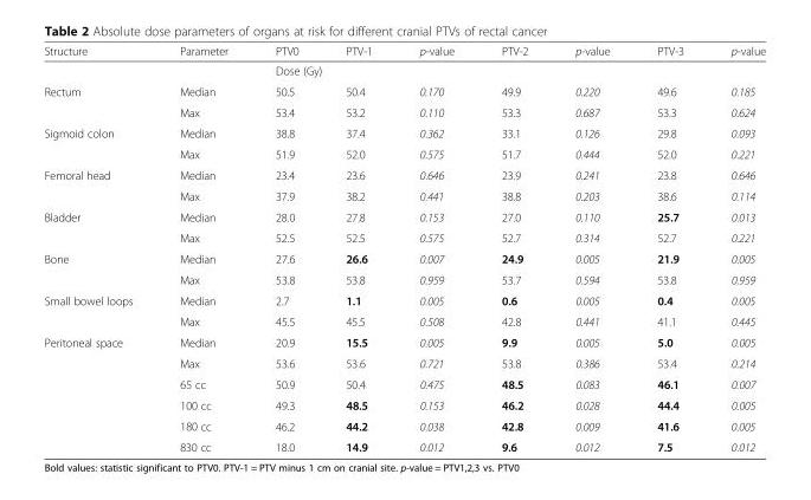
<table><thead><tr><td>Structure</td><td>Parameter</td><td>PTV0</td><td>PTV-1</td><td>p-value</td><td>PTV-2</td><td>p-value</td><td>PTV-3</td><td>p-value</td></tr></thead><tbody><tr><td colspan="2"></td><td colspan="7">Dose (Gy)</td></tr><tr><td rowspan="2">Rectum</td><td>Median</td><td>50.5</td><td>50.4</td><td>0.170</td><td>49.9</td><td>0.220</td><td>49.6</td><td>0.185</td></tr><tr><td>Max</td><td>53.4</td><td>53.2</td><td>0.110</td><td>53.3</td><td>0.687</td><td>53.3</td><td>0.624</td></tr><tr><td rowspan="2">Sigmoid colon</td><td>Median</td><td>38.8</td><td>37.4</td><td>0.362</td><td>33.1</td><td>0.126</td><td>29.8</td><td>0.093</td></tr><tr><td>Max</td><td>51.9</td><td>52.0</td><td>0.575</td><td>51.7</td><td>0.444</td><td>52.0</td><td>0.221</td></tr><tr><td rowspan="2">Femoral head</td><td>Median</td><td>23.4</td><td>23.6</td><td>0.646</td><td>23.9</td><td>0.241</td><td>23.8</td><td>0.646</td></tr><tr><td>Max</td><td>37.9</td><td>38.2</td><td>0.441</td><td>38.8</td><td>0.203</td><td>38.6</td><td>0.114</td></tr><tr><td rowspan="2">Bladder</td><td>Median</td><td>28.0</td><td>27.8</td><td>0.153</td><td>27.0</td><td>0.110</td><td>25.7</td><td>0.013</td></tr><tr><td>Max</td><td>52.5</td><td>52.5</td><td>0.575</td><td>52.7</td><td>0.314</td><td>52.7</td><td>0.221</td></tr><tr><td rowspan="2">Bone</td><td>Median</td><td>27.6</td><td>26.6</td><td>0.007</td><td>24.9</td><td>0.005</td><td>21.9</td><td>0.005</td></tr><tr><td>Max</td><td>53.8</td><td>53.8</td><td>0.959</td><td>53.7</td><td>0.594</td><td>53.8</td><td>0.959</td></tr><tr><td rowspan="2">Small bowel loops</td><td>Median</td><td>2.7</td><td>1.1</td><td>0.005</td><td>0.6</td><td>0.005</td><td>0.4</td><td>0.005</td></tr><tr><td>Max</td><td>45.5</td><td>45.5</td><td>0.508</td><td>42.8</td><td>0.441</td><td>41.1</td><td>0.445</td></tr><tr><td rowspan="6">Peritoneal space</td><td>Median</td><td>20.9</td><td>15.5</td><td>0.005</td><td>9.9</td><td>0.005</td><td>5.0</td><td>0.005</td></tr><tr><td>Max</td><td>53.6</td><td>53.6</td><td>0.721</td><td>53.8</td><td>0.386</td><td>53.4</td><td>0.214</td></tr><tr><td>65 cc</td><td>50.9</td><td>50.4</td><td>0.475</td><td>48.5</td><td>0.083</td><td>46.1</td><td>0.007</td></tr><tr><td>100 cc</td><td>49.3</td><td>48.5</td><td>0.153</td><td>46.2</td><td>0.028</td><td>44.4</td><td>0.005</td></tr><tr><td>180 cc</td><td>46.2</td><td>44.2</td><td>0.038</td><td>42.8</td><td>0.009</td><td>41.6</td><td>0.005</td></tr><tr><td>830 cc</td><td>18.0</td><td>14.9</td><td>0.012</td><td>9.6</td><td>0.012</td><td>7.5</td><td>0.012</td></tr></tbody></table>